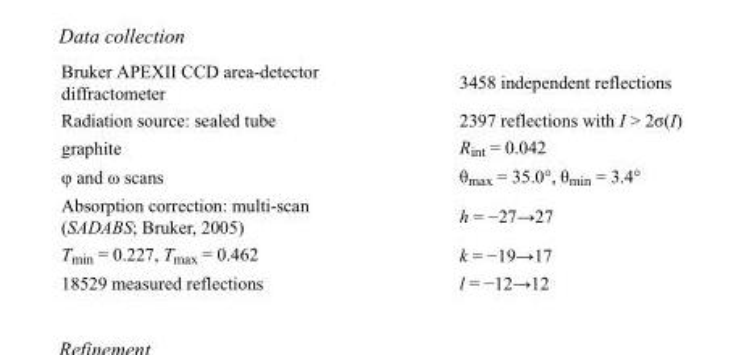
<table><tbody><tr><td>Bruker APEXII CCD area-detector diffractometer</td><td>3458 independent reflections</td></tr><tr><td>Radiation source: sealed tube</td><td>2397 reflections with I &gt; 2σ(I)</td></tr><tr><td>graphite</td><td>R<sub>int</sub> = 0.042</td></tr><tr><td>φ and ω scans</td><td>θ<sub>max</sub> = 35.0°, θ<sub>min</sub> = 3.4°</td></tr><tr><td>Absorption correction: multi-scan (SADABS; Bruker, 2005)</td><td>h = −27→27</td></tr><tr><td>T<sub>min</sub> = 0.227, T<sub>max</sub> = 0.462</td><td>k = −19→17</td></tr><tr><td>18529 measured reflections</td><td>l = −12→12</td></tr></tbody></table>